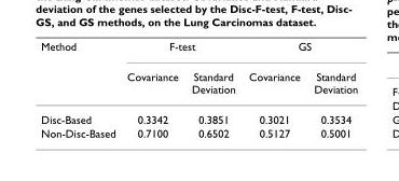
<table><thead><tr><td rowspan="2">Method</td><td colspan="2">F-test</td><td colspan="2">GS</td></tr><tr><td>Covariance</td><td>Standard Deviation</td><td>Covariance</td><td>Standard Deviation</td></tr></thead><tbody><tr><td>Disc-Based</td><td>0.3342</td><td>0.3851</td><td>0.3021</td><td>0.3534</td></tr><tr><td>Non-Disc-Based</td><td>0.7100</td><td>0.6502</td><td>0.5127</td><td>0.5001</td></tr></tbody></table>